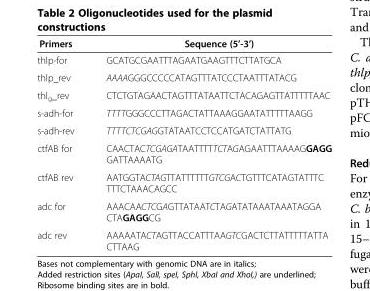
<table><thead><tr><td>Primers</td><td>Sequence (5’-3’)</td></tr></thead><tbody><tr><td>thlp-for</td><td>GCATGCGAATTTAGAATGAAGTTTCTTATGCA</td></tr><tr><td>thlp_rev</td><td>AAAAGGGCCCCCATAGTTTATCCCTAATTTATACG</td></tr><tr><td>thlg_rev</td><td>CTCTGTAGAACTAGTTTATAATTCTACAGAGTTATTTTTAAC</td></tr><tr><td>s-adh-for</td><td>TTTTGGGCCCTTAGACTATTAAAGGAATATTTTTAAGG</td></tr><tr><td>s-adh-rev</td><td>TTTTCTCGAGGTATAATCCTCCATGATCTATTATG</td></tr><tr><td>ctfAB for</td><td>CAACTACTCGAGATAATTTTTCTAGAGAATTTAAAAGGAGG GATTAAAATG</td></tr><tr><td>ctfAB rev</td><td>AATGGTACTAGTTATTTTTTGTCGACTGTTTCATAGTATTTC TTTCTAAACAGCC</td></tr><tr><td>adc for</td><td>AAACAACTCGAGTTATAATCTAGATATAAATAAATAGGA CTAGAGGCG</td></tr><tr><td>adc rev</td><td>AAAAATACTAGTTACCATTTAAGTCGACTCTTATTTTTATTA CTTAAG</td></tr></tbody></table>